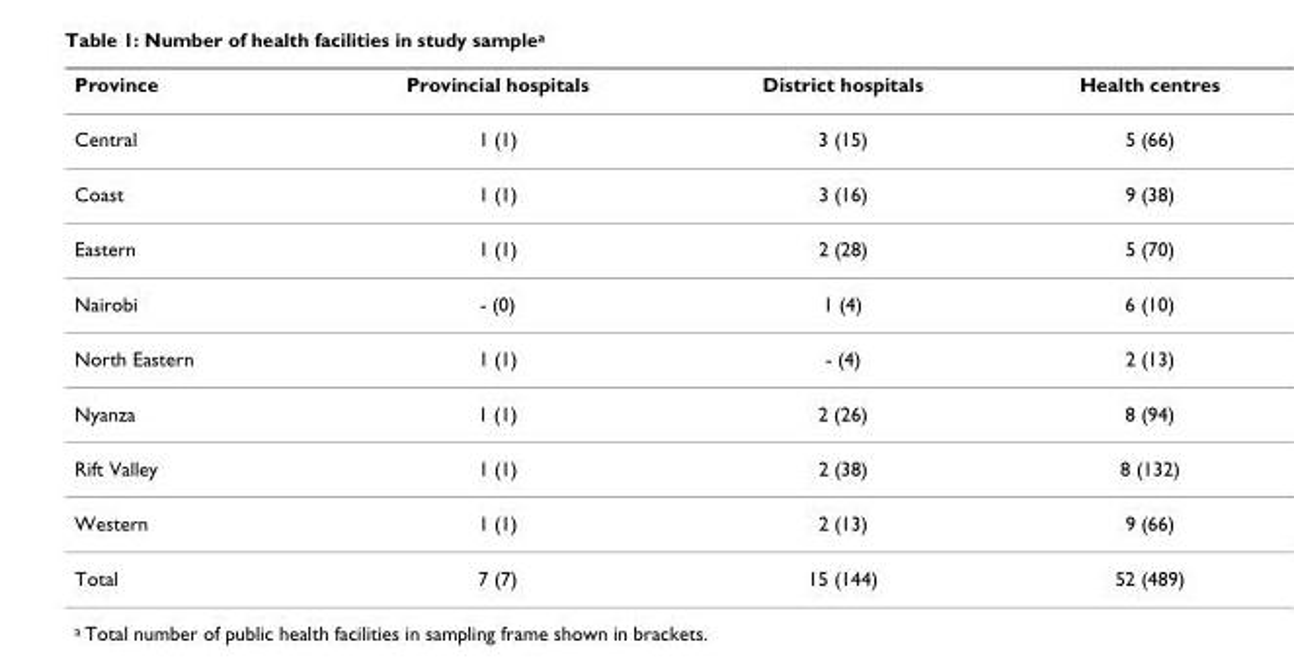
<table><thead><tr><td>Province</td><td>Provincial hospitals</td><td>District hospitals</td><td>Health centres</td></tr></thead><tbody><tr><td>Central</td><td>1 (1)</td><td>3 (15)</td><td>5 (66)</td></tr><tr><td>Coast</td><td>1 (1)</td><td>3 (16)</td><td>9 (38)</td></tr><tr><td>Eastern</td><td>1 (1)</td><td>2 (28)</td><td>5 (70)</td></tr><tr><td>Nairobi</td><td>- (0)</td><td>1 (4)</td><td>6 (10)</td></tr><tr><td>North Eastern</td><td>1 (1)</td><td>- (4)</td><td>2 (13)</td></tr><tr><td>Nyanza</td><td>1 (1)</td><td>2 (26)</td><td>8 (94)</td></tr><tr><td>Rift Valley</td><td>1 (1)</td><td>2 (38)</td><td>8 (132)</td></tr><tr><td>Western</td><td>1 (1)</td><td>2 (13)</td><td>9 (66)</td></tr><tr><td>Total</td><td>7 (7)</td><td>15 (144)</td><td>52 (489)</td></tr></tbody></table>